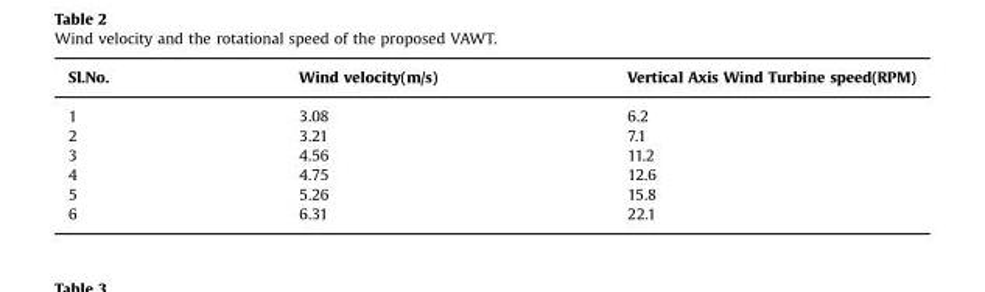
<table><thead><tr><td>Sl.No.</td><td>Wind velocity(m/s)</td><td>Vertical Axis Wind Turbine speed(RPM)</td></tr></thead><tbody><tr><td>1</td><td>3.08</td><td>6.2</td></tr><tr><td>2</td><td>3.21</td><td>7.1</td></tr><tr><td>3</td><td>4.56</td><td>11.2</td></tr><tr><td>4</td><td>4.75</td><td>12.6</td></tr><tr><td>5</td><td>5.26</td><td>15.8</td></tr><tr><td>6</td><td>6.31</td><td>22.1</td></tr></tbody></table>